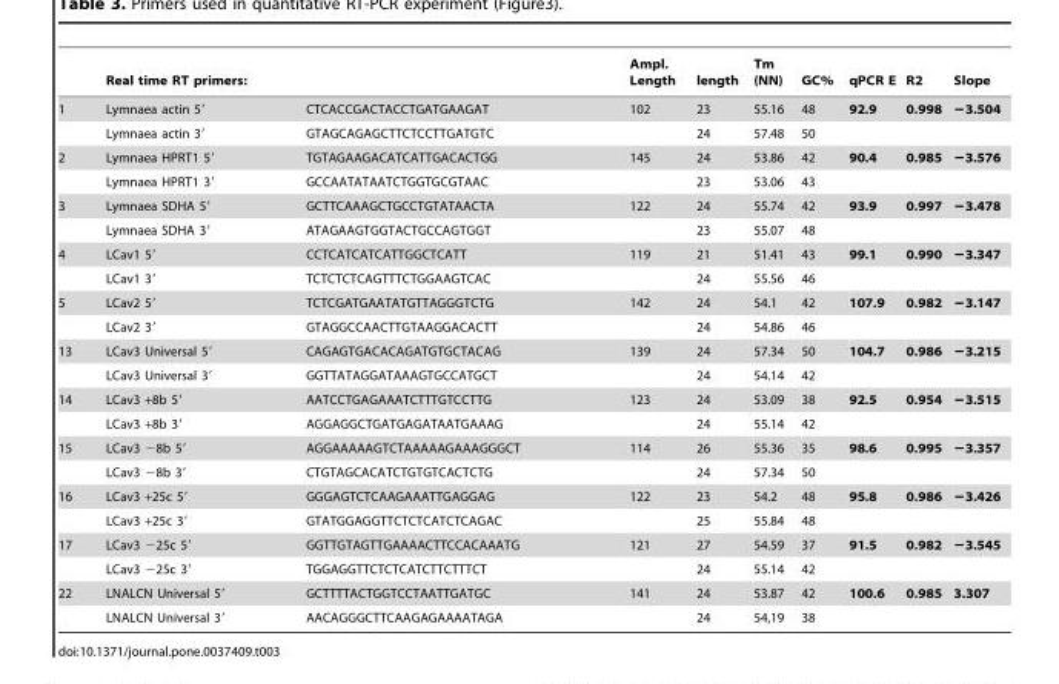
<table><thead><tr><td rowspan="2">1</td><td colspan="2">Real time RT primers:</td><td rowspan="2">Ampl. Length 102</td><td rowspan="2">length 23</td><td rowspan="2">Tm (NN) 55.16</td><td rowspan="2">GC% 48</td><td rowspan="2">qPCR E 92.9</td><td rowspan="2">R2 0.998</td><td rowspan="2">Slope −3.504</td></tr><tr><td>Lymnaea actin 5′</td><td>CTCACCGACTACCTGATGAAGAT</td></tr></thead><tbody><tr><td></td><td>Lymnaea actin 3′</td><td>GTAGCAGAGCTTCTCCTTGATGTC</td><td></td><td>24</td><td>57.48</td><td>50</td><td></td><td></td><td></td></tr><tr><td rowspan="2">2</td><td>Lymnaea HPRT1 5′</td><td>TGTAGAAGACATCATTGACACTGG</td><td>145</td><td>24</td><td>53.86</td><td>42</td><td>90.4</td><td>0.985</td><td>−3.576</td></tr><tr><td>Lymnaea HPRT1 3′</td><td>GCCAATATAATCTGGTGCGTAAC</td><td></td><td>23</td><td>53.06</td><td>43</td><td></td><td></td><td></td></tr><tr><td rowspan="2">3</td><td>Lymnaea SDHA 5′</td><td>GCTTCAAAGCTGCCTGTATAACTA</td><td>122</td><td>24</td><td>55.74</td><td>42</td><td>93.9</td><td>0.997</td><td>−3.478</td></tr><tr><td>Lymnaea SDHA 3′</td><td>ATAGAAGTGGTACTGCCAGTGGT</td><td></td><td>23</td><td>55.07</td><td>48</td><td></td><td></td><td></td></tr><tr><td rowspan="2">4</td><td>LCav1 5′</td><td>CCTCATCATCATTGGCTCATT</td><td>119</td><td>21</td><td>51.41</td><td>43</td><td>99.1</td><td>0.990</td><td>−3.347</td></tr><tr><td>LCav1 3′</td><td>TCTCTCTCAGTTTCTGGAAGTCAC</td><td></td><td>24</td><td>55.56</td><td>46</td><td></td><td></td><td></td></tr><tr><td rowspan="2">5</td><td>LCav2 5′</td><td>TCTCGATGAATATGTTAGGGTCTG</td><td>142</td><td>24</td><td>54.1</td><td>42</td><td>107.9</td><td>0.982</td><td>−3.147</td></tr><tr><td>LCav2 3′</td><td>GTAGGCCAACTTGTAAGGACACTT</td><td></td><td>24</td><td>54.86</td><td>46</td><td></td><td></td><td></td></tr><tr><td rowspan="2">13</td><td>LCav3 Universal 5′</td><td>CAGAGTGACACAGATGTGCTACAG</td><td>139</td><td>24</td><td>57.34</td><td>50</td><td>104.7</td><td>0.986</td><td>−3.215</td></tr><tr><td>LCav3 Universal 3′</td><td>GGTTATAGGATAAAGTGCCATGCT</td><td></td><td>24</td><td>54.14</td><td>42</td><td></td><td></td><td></td></tr><tr><td rowspan="2">14</td><td>LCav3 +8b 5′</td><td>AATCCTGAGAAATCTTTGTCCTTG</td><td>123</td><td>24</td><td>53.09</td><td>38</td><td>92.5</td><td>0.954</td><td>−3.515</td></tr><tr><td>LCav3 +8b 3′</td><td>AGGAGGCTGATGAGATAATGAAAG</td><td></td><td>24</td><td>55.14</td><td>42</td><td></td><td></td><td></td></tr><tr><td rowspan="2">15</td><td>LCav3 −8b 5′</td><td>AGGAAAAAGTCTAAAAAGAAAGGGCT</td><td>114</td><td>26</td><td>55.36</td><td>35</td><td>98.6</td><td>0.995</td><td>−3.357</td></tr><tr><td>LCav3 −8b 3′</td><td>CTGTAGCACATCTGTGTCACTCTG</td><td></td><td>24</td><td>57.34</td><td>50</td><td></td><td></td><td></td></tr><tr><td rowspan="2">16</td><td>LCav3 +25c 5′</td><td>GGGAGTCTCAAGAAATTGAGGAG</td><td>122</td><td>23</td><td>54.2</td><td>48</td><td>95.8</td><td>0.986</td><td>−3.426</td></tr><tr><td>LCav3 +25c 3′</td><td>GTATGGAGGTTCTCTCATCTCAGAC</td><td></td><td>25</td><td>55.84</td><td>48</td><td></td><td></td><td></td></tr><tr><td rowspan="2">17</td><td>LCav3 −25c 5′</td><td>GGTTGTAGTTGAAAACTTCCACAAATG</td><td>121</td><td>27</td><td>54.59</td><td>37</td><td>91.5</td><td>0.982</td><td>−3.545</td></tr><tr><td>LCav3 −25c 3′</td><td>TGGAGGTTCTCTCATCTTCTTTCT</td><td></td><td>24</td><td>55.14</td><td>42</td><td></td><td></td><td></td></tr><tr><td rowspan="2">22</td><td>LNALCN Universal 5′</td><td>GCTTTTACTGGTCCTAATTGATGC</td><td>141</td><td>24</td><td>53.87</td><td>42</td><td>100.6</td><td>0.985</td><td>3.307</td></tr><tr><td>LNALCN Universal 3′</td><td>AACAGGGCTTCAAGAGAAAATAGA</td><td></td><td>24</td><td>54,19</td><td>38</td><td></td><td></td><td></td></tr></tbody></table>